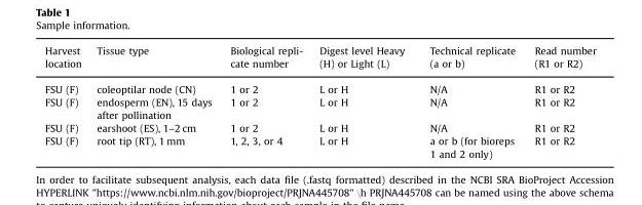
<table><thead><tr><td>Harvest location</td><td>Tissue type</td><td>Biological repli- cate number</td><td>Digest level Heavy (H) or Light (L)</td><td>Technical replicate (a or b)</td><td>Read number (R1 or R2)</td></tr></thead><tbody><tr><td>FSU (F)</td><td>coleoptilar node (CN)</td><td>1 or 2</td><td>L or H</td><td>N/A</td><td>R1 or R2</td></tr><tr><td>FSU (F)</td><td>endosperm (EN), 15 days after pollination</td><td>1 or 2</td><td>L or H</td><td>N/A</td><td>R1 or R2</td></tr><tr><td>FSU (F)</td><td>earshoot (ES), 1–2 cm</td><td>1 or 2</td><td>L or H</td><td>N/A</td><td>R1 or R2</td></tr><tr><td>FSU (F)</td><td>root tip (RT), 1 mm</td><td>1, 2, 3, or 4</td><td>L or H</td><td>a or b (for bioreps 1 and 2 only)</td><td>R1 or R2</td></tr></tbody></table>